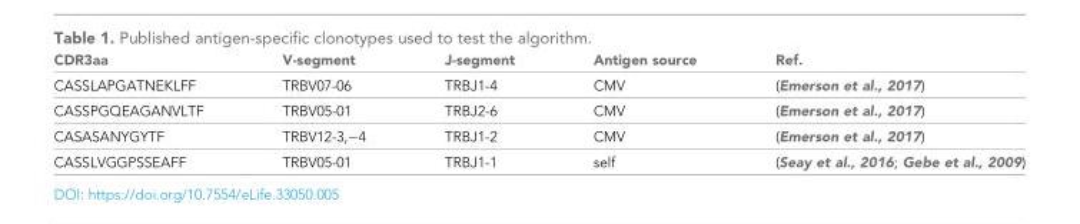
<table><thead><tr><td>CDR3aa</td><td>V-segment</td><td>J-segment</td><td>Antigen source</td><td>Ref.</td></tr></thead><tbody><tr><td>CASSLAPGATNEKLFF</td><td>TRBV07-06</td><td>TRBJ1-4</td><td>CMV</td><td>(Emerson et al., 2017)</td></tr><tr><td>CASSPGQEAGANVLTF</td><td>TRBV05-01</td><td>TRBJ2-6</td><td>CMV</td><td>(Emerson et al., 2017)</td></tr><tr><td>CASASANYGYTF</td><td>TRBV12-3,−4</td><td>TRBJ1-2</td><td>CMV</td><td>(Emerson et al., 2017)</td></tr><tr><td>CASSLVGGPSSEAFF</td><td>TRBV05-01</td><td>TRBJ1-1</td><td>self</td><td>(Seay et al., 2016; Gebe et al., 2009)</td></tr></tbody></table>